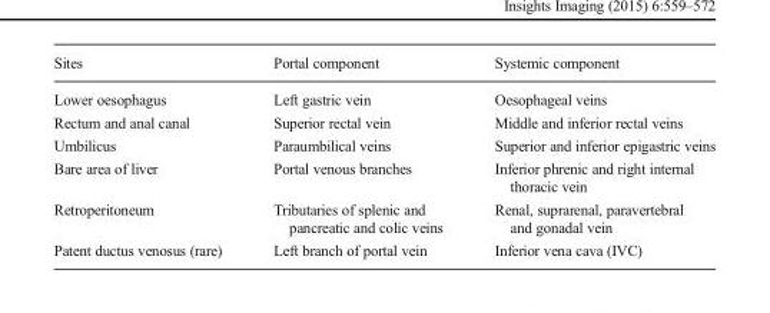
<table><thead><tr><td>Sites</td><td>Portal component</td><td>Systemic component</td></tr></thead><tbody><tr><td>Lower oesophagus</td><td>Left gastric vein</td><td>Oesophageal veins</td></tr><tr><td>Rectum and anal canal</td><td>Superior rectal vein</td><td>Middle and inferior rectal veins</td></tr><tr><td>Umbilicus</td><td>Paraumbilical veins</td><td>Superior and inferior epigastric veins</td></tr><tr><td>Bare area of liver</td><td>Portal venous branches</td><td>Inferior phrenic and right internal thoracic vein</td></tr><tr><td>Retroperitoneum</td><td>Tributaries of splenic and pancreatic and colic veins</td><td>Renal, suprarenal, paravertebral and gonadal vein</td></tr><tr><td>Patent ductus venosus (rare)</td><td>Left branch of portal vein</td><td>Inferior vena cava (IVC)</td></tr></tbody></table>